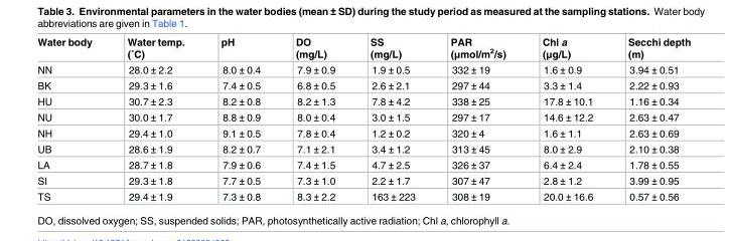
<table><thead><tr><td>Water body</td><td>Water temp. (˚C)</td><td>pH</td><td>DO (mg/L)</td><td>SS (mg/L)</td><td>PAR (μmol/m<sup>2</sup>/s)</td><td>Chl a (μg/L)</td><td>Secchi depth (m)</td></tr></thead><tbody><tr><td>NN</td><td>28.0 ± 2.2</td><td>8.0 ± 0.4</td><td>7.9 ± 0.9</td><td>1.9 ± 0.5</td><td>332 ± 19</td><td>1.6 ± 0.9</td><td>3.94 ± 0.51</td></tr><tr><td>BK</td><td>29.3 ± 1.6</td><td>7.4 ± 0.5</td><td>6.8 ± 0.5</td><td>2.6 ± 2.1</td><td>297 ± 44</td><td>3.3 ± 1.4</td><td>2.22 ± 0.93</td></tr><tr><td>HU</td><td>30.7 ± 2.3</td><td>8.2 ± 0.8</td><td>8.2 ± 1.3</td><td>7.8 ± 4.2</td><td>338 ± 25</td><td>17.8 ± 10.1</td><td>1.16 ± 0.34</td></tr><tr><td>NU</td><td>30.0 ± 1.7</td><td>8.8 ± 0.9</td><td>8.0 ± 0.4</td><td>3.0 ± 1.5</td><td>297 ± 17</td><td>14.6 ± 12.2</td><td>2.63 ± 0.47</td></tr><tr><td>NH</td><td>29.4 ± 1.0</td><td>9.1 ± 0.5</td><td>7.8 ± 0.4</td><td>1.2 ± 0.2</td><td>320 ± 4</td><td>1.6 ± 1.1</td><td>2.63 ± 0.69</td></tr><tr><td>UB</td><td>28.6 ± 1.9</td><td>8.2 ± 0.7</td><td>7.1 ± 2.1</td><td>3.4 ± 1.2</td><td>313 ± 45</td><td>8.0 ± 2.9</td><td>2.10 ± 0.38</td></tr><tr><td>LA</td><td>28.7 ± 1.8</td><td>7.9 ± 0.6</td><td>7.4 ± 1.5</td><td>4.7 ± 2.5</td><td>326 ± 37</td><td>6.4 ± 2.4</td><td>1.78 ± 0.55</td></tr><tr><td>SI</td><td>29.3 ± 1.8</td><td>7.7 ± 0.5</td><td>7.3 ± 1.0</td><td>2.2 ± 1.7</td><td>307 ± 47</td><td>2.8 ± 1.2</td><td>3.99 ± 0.95</td></tr><tr><td>TS</td><td>29.4 ± 1.9</td><td>7.3 ± 0.8</td><td>8.3 ± 2.2</td><td>163 ± 223</td><td>308 ± 19</td><td>20.0 ± 16.6</td><td>0.57 ± 0.56</td></tr></tbody></table>